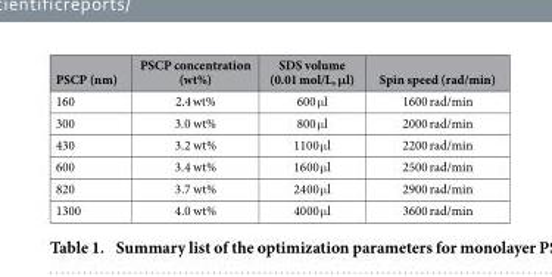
<table><thead><tr><td>PSCP (nm)</td><td>PSCP concentration (wt%)</td><td>SDS volume (0.01 mol/L, μl)</td><td>Spin speed (rad/min)</td></tr></thead><tbody><tr><td>160</td><td>2.4 wt%</td><td>600 μ l</td><td>1600 rad/min</td></tr><tr><td>300</td><td>3.0 wt%</td><td>800 μ l</td><td>2000 rad/min</td></tr><tr><td>430</td><td>3.2 wt%</td><td>1100 μ l</td><td>2200 rad/min</td></tr><tr><td>600</td><td>3.4 wt%</td><td>1600 μ l</td><td>2500 rad/min</td></tr><tr><td>820</td><td>3.7 wt%</td><td>2400 μ l</td><td>2900 rad/min</td></tr><tr><td>1300</td><td>4.0 wt%</td><td>4000 μ l</td><td>3600 rad/min</td></tr></tbody></table>